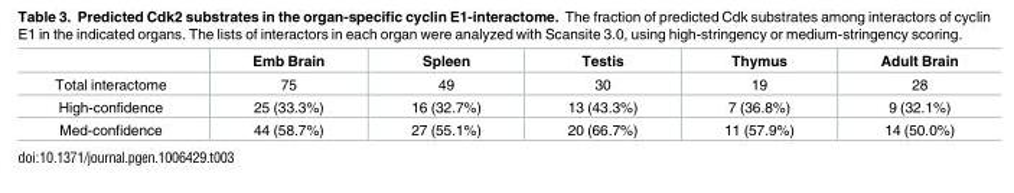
<table><thead><tr><td></td><td>Emb Brain</td><td>Spleen</td><td>Testis</td><td>Thymus</td><td>Adult Brain</td></tr></thead><tbody><tr><td>Total interactome</td><td>75</td><td>49</td><td>30</td><td>19</td><td>28</td></tr><tr><td>High-confidence</td><td>25 (33.3%)</td><td>16 (32.7%)</td><td>13 (43.3%)</td><td>7 (36.8%)</td><td>9 (32.1%)</td></tr><tr><td>Med-confidence</td><td>44 (58.7%)</td><td>27 (55.1%)</td><td>20 (66.7%)</td><td>11 (57.9%)</td><td>14 (50.0%)</td></tr></tbody></table>